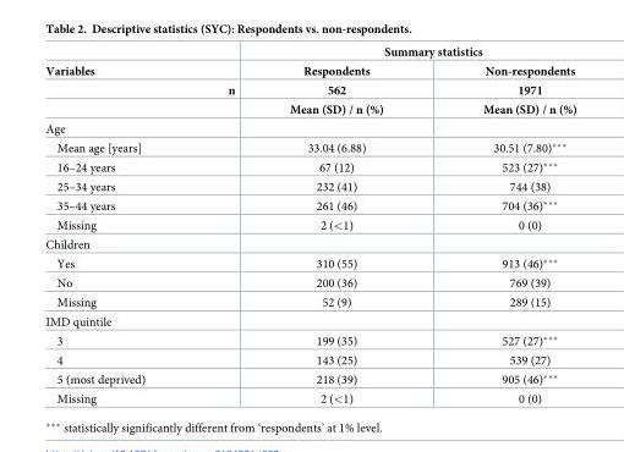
<table><thead><tr><td rowspan="4">Variables n</td><td colspan="2">Summary statistics</td></tr><tr><td rowspan="3">Respondents 562 Mean (SD) / n (%)</td><td rowspan="3">Non-respondents 1971 Mean (SD) / n (%)</td></tr><tr></tr><tr></tr></thead><tbody><tr><td colspan="3">Age</td></tr><tr><td>Mean age [years]</td><td>33.04 (6.88)</td><td>30.51 (7.80)***</td></tr><tr><td>16–24 years</td><td>67 (12)</td><td>523 (27)***</td></tr><tr><td>25–34 years</td><td>232 (41)</td><td>744 (38)</td></tr><tr><td>35–44 years</td><td>261 (46)</td><td>704 (36)***</td></tr><tr><td>Missing</td><td>2 (&lt;1)</td><td>0 (0)</td></tr><tr><td colspan="3">Children</td></tr><tr><td>Yes</td><td>310 (55)</td><td>913 (46)***</td></tr><tr><td>No</td><td>200 (36)</td><td>769 (39)</td></tr><tr><td>Missing</td><td>52 (9)</td><td>289 (15)</td></tr><tr><td colspan="3">IMD quintile</td></tr><tr><td>3</td><td>199 (35)</td><td>527 (27)***</td></tr><tr><td>4</td><td>143 (25)</td><td>539 (27)</td></tr><tr><td>5 (most deprived)</td><td>218 (39)</td><td>905 (46)***</td></tr><tr><td>Missing</td><td>2 (&lt;1)</td><td>0 (0)</td></tr></tbody></table>